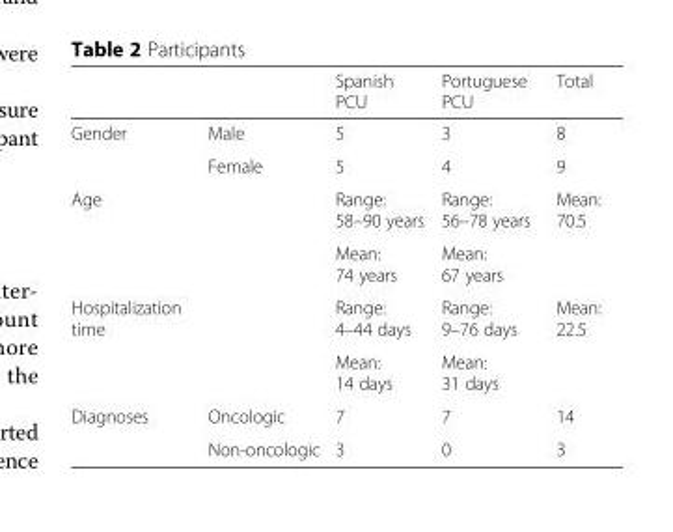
<table><thead><tr><td></td><td></td><td>Spanish PCU</td><td>Portuguese PCU</td><td>Total</td></tr></thead><tbody><tr><td rowspan="2">Gender</td><td>Male</td><td>5</td><td>3</td><td>8</td></tr><tr><td>Female</td><td>5</td><td>4</td><td>9</td></tr><tr><td rowspan="2">Age</td><td rowspan="2"></td><td>Range: 58–90 years</td><td>Range: 56–78 years</td><td rowspan="2">Mean: 70.5</td></tr><tr><td>Mean: 74 years</td><td>Mean: 67 years</td></tr><tr><td rowspan="2">Hospitalization time</td><td rowspan="2"></td><td>Range: 4–44 days</td><td>Range: 9–76 days</td><td rowspan="2">Mean: 22.5</td></tr><tr><td>Mean: 14 days</td><td>Mean: 31 days</td></tr><tr><td rowspan="2">Diagnoses</td><td>Oncologic</td><td>7</td><td>7</td><td>14</td></tr><tr><td>Non-oncologic</td><td>3</td><td>0</td><td>3</td></tr></tbody></table>